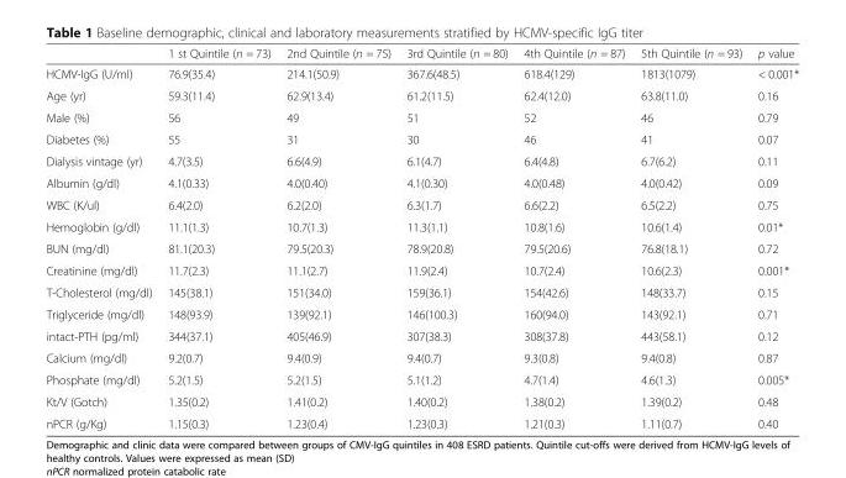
<table><thead><tr><td></td><td>1 st Quintile (n = 73)</td><td>2nd Quintile (n = 75)</td><td>3rd Quintile (n = 80)</td><td>4th Quintile (n = 87)</td><td>5th Quintile (n = 93)</td><td>p value</td></tr></thead><tbody><tr><td>HCMV-IgG (U/ml)</td><td>76.9(35.4)</td><td>214.1(50.9)</td><td>367.6(48.5)</td><td>618.4(129)</td><td>1813(1079)</td><td>&lt; 0.001*</td></tr><tr><td>Age (yr)</td><td>59.3(11.4)</td><td>62.9(13.4)</td><td>61.2(11.5)</td><td>62.4(12.0)</td><td>63.8(11.0)</td><td>0.16</td></tr><tr><td>Male (%)</td><td>56</td><td>49</td><td>51</td><td>52</td><td>46</td><td>0.79</td></tr><tr><td>Diabetes (%)</td><td>55</td><td>31</td><td>30</td><td>46</td><td>41</td><td>0.07</td></tr><tr><td>Dialysis vintage (yr)</td><td>4.7(3.5)</td><td>6.6(4.9)</td><td>6.1(4.7)</td><td>6.4(4.8)</td><td>6.7(6.2)</td><td>0.11</td></tr><tr><td>Albumin (g/dl)</td><td>4.1(0.33)</td><td>4.0(0.40)</td><td>4.1(0.30)</td><td>4.0(0.48)</td><td>4.0(0.42)</td><td>0.09</td></tr><tr><td>WBC (K/ul)</td><td>6.4(2.0)</td><td>6.2(2.0)</td><td>6.3(1.7)</td><td>6.6(2.2)</td><td>6.5(2.2)</td><td>0.75</td></tr><tr><td>Hemoglobin (g/dl)</td><td>11.1(1.3)</td><td>10.7(1.3)</td><td>11.3(1.1)</td><td>10.8(1.6)</td><td>10.6(1.4)</td><td>0.01*</td></tr><tr><td>BUN (mg/dl)</td><td>81.1(20.3)</td><td>79.5(20.3)</td><td>78.9(20.8)</td><td>79.5(20.6)</td><td>76.8(18.1)</td><td>0.72</td></tr><tr><td>Creatinine (mg/dl)</td><td>11.7(2.3)</td><td>11.1(2.7)</td><td>11.9(2.4)</td><td>10.7(2.4)</td><td>10.6(2.3)</td><td>0.001*</td></tr><tr><td>T-Cholesterol (mg/dl)</td><td>145(38.1)</td><td>151(34.0)</td><td>159(36.1)</td><td>154(42.6)</td><td>148(33.7)</td><td>0.15</td></tr><tr><td>Triglyceride (mg/dl)</td><td>148(93.9)</td><td>139(92.1)</td><td>146(100.3)</td><td>160(94.0)</td><td>143(92.1)</td><td>0.71</td></tr><tr><td>intact-PTH (pg/ml)</td><td>344(37.1)</td><td>405(46.9)</td><td>307(38.3)</td><td>308(37.8)</td><td>443(58.1)</td><td>0.12</td></tr><tr><td>Calcium (mg/dl)</td><td>9.2(0.7)</td><td>9.4(0.9)</td><td>9.4(0.7)</td><td>9.3(0.8)</td><td>9.4(0.8)</td><td>0.87</td></tr><tr><td>Phosphate (mg/dl)</td><td>5.2(1.5)</td><td>5.2(1.5)</td><td>5.1(1.2)</td><td>4.7(1.4)</td><td>4.6(1.3)</td><td>0.005*</td></tr><tr><td>Kt/V (Gotch)</td><td>1.35(0.2)</td><td>1.41(0.2)</td><td>1.40(0.2)</td><td>1.38(0.2)</td><td>1.39(0.2)</td><td>0.48</td></tr><tr><td>nPCR (g/Kg)</td><td>1.15(0.3)</td><td>1.23(0.4)</td><td>1.23(0.3)</td><td>1.21(0.3)</td><td>1.11(0.7)</td><td>0.40</td></tr></tbody></table>